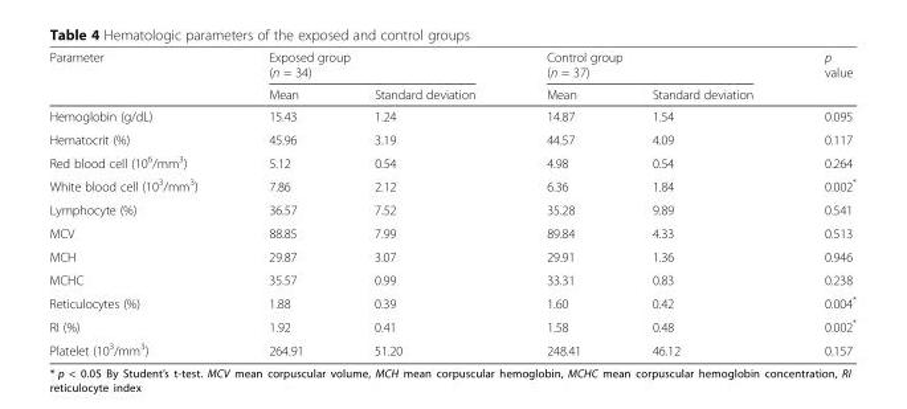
<table><thead><tr><td rowspan="2">Parameter</td><td colspan="2">Exposed group (n = 34)</td><td colspan="2">Control group (n = 37)</td><td rowspan="2">p value</td></tr><tr><td>Mean</td><td>Standard deviation</td><td>Mean</td><td>Standard deviation</td></tr></thead><tbody><tr><td>Hemoglobin (g/dL)</td><td>15.43</td><td>1.24</td><td>14.87</td><td>1.54</td><td>0.095</td></tr><tr><td>Hematocrit (%)</td><td>45.96</td><td>3.19</td><td>44.57</td><td>4.09</td><td>0.117</td></tr><tr><td>Red blood cell (10<sup>6</sup>/mm<sup>3</sup>)</td><td>5.12</td><td>0.54</td><td>4.98</td><td>0.54</td><td>0.264</td></tr><tr><td>White blood cell (10<sup>3</sup>/mm<sup>3</sup>)</td><td>7.86</td><td>2.12</td><td>6.36</td><td>1.84</td><td>0.002*</td></tr><tr><td>Lymphocyte (%)</td><td>36.57</td><td>7.52</td><td>35.28</td><td>9.89</td><td>0.541</td></tr><tr><td>MCV</td><td>88.85</td><td>7.99</td><td>89.84</td><td>4.33</td><td>0.513</td></tr><tr><td>MCH</td><td>29.87</td><td>3.07</td><td>29.91</td><td>1.36</td><td>0.946</td></tr><tr><td>MCHC</td><td>35.57</td><td>0.99</td><td>33.31</td><td>0.83</td><td>0.238</td></tr><tr><td>Reticulocytes (%)</td><td>1.88</td><td>0.39</td><td>1.60</td><td>0.42</td><td>0.004*</td></tr><tr><td>RI (%)</td><td>1.92</td><td>0.41</td><td>1.58</td><td>0.48</td><td>0.002*</td></tr><tr><td>Platelet (10<sup>3</sup>/mm<sup>3</sup>)</td><td>264.91</td><td>51.20</td><td>248.41</td><td>46.12</td><td>0.157</td></tr></tbody></table>